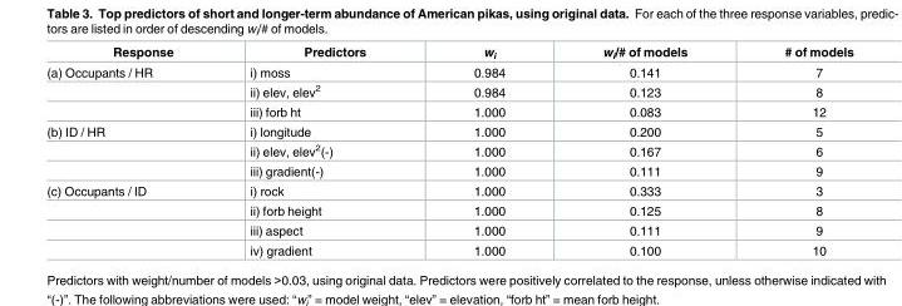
<table><thead><tr><td>Response</td><td>Predictors</td><td>w<sub>i</sub></td><td>w<sub>i</sub>/# of models</td><td># of models</td></tr></thead><tbody><tr><td rowspan="3">(a) Occupants / HR</td><td>i) moss</td><td>0.984</td><td>0.141</td><td>7</td></tr><tr><td>ii) elev, elev<sup>2</sup></td><td>0.984</td><td>0.123</td><td>8</td></tr><tr><td>iii) forb ht</td><td>1.000</td><td>0.083</td><td>12</td></tr><tr><td rowspan="3">(b) ID / HR</td><td>i) longitude</td><td>1.000</td><td>0.200</td><td>5</td></tr><tr><td>ii) elev, elev<sup>2</sup>(-)</td><td>1.000</td><td>0.167</td><td>6</td></tr><tr><td>iii) gradient(-)</td><td>1.000</td><td>0.111</td><td>9</td></tr><tr><td rowspan="4">(c) Occupants / ID</td><td>i) rock</td><td>1.000</td><td>0.333</td><td>3</td></tr><tr><td>ii) forb height</td><td>1.000</td><td>0.125</td><td>8</td></tr><tr><td>iii) aspect</td><td>1.000</td><td>0.111</td><td>9</td></tr><tr><td>iv) gradient</td><td>1.000</td><td>0.100</td><td>10</td></tr></tbody></table>